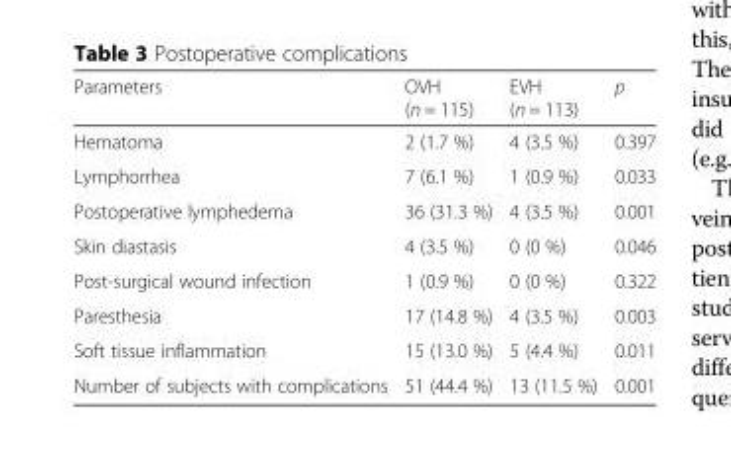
<table><thead><tr><td>Parameters</td><td>OVH (n = 115)</td><td>EVH (n = 113)</td><td>р</td></tr></thead><tbody><tr><td>Hematoma</td><td>2 (1.7 %)</td><td>4 (3.5 %)</td><td>0.397</td></tr><tr><td>Lymphorrhea</td><td>7 (6.1 %)</td><td>1 (0.9 %)</td><td>0.033</td></tr><tr><td>Postoperative lymphedema</td><td>36 (31.3 %)</td><td>4 (3.5 %)</td><td>0.001</td></tr><tr><td>Skin diastasis</td><td>4 (3.5 %)</td><td>0 (0 %)</td><td>0.046</td></tr><tr><td>Post-surgical wound infection</td><td>1 (0.9 %)</td><td>0 (0 %)</td><td>0.322</td></tr><tr><td>Paresthesia</td><td>17 (14.8 %)</td><td>4 (3.5 %)</td><td>0.003</td></tr><tr><td>Soft tissue inflammation</td><td>15 (13.0 %)</td><td>5 (4.4 %)</td><td>0.011</td></tr><tr><td>Number of subjects with complications</td><td>51 (44.4 %)</td><td>13 (11.5 %)</td><td>0.001</td></tr></tbody></table>